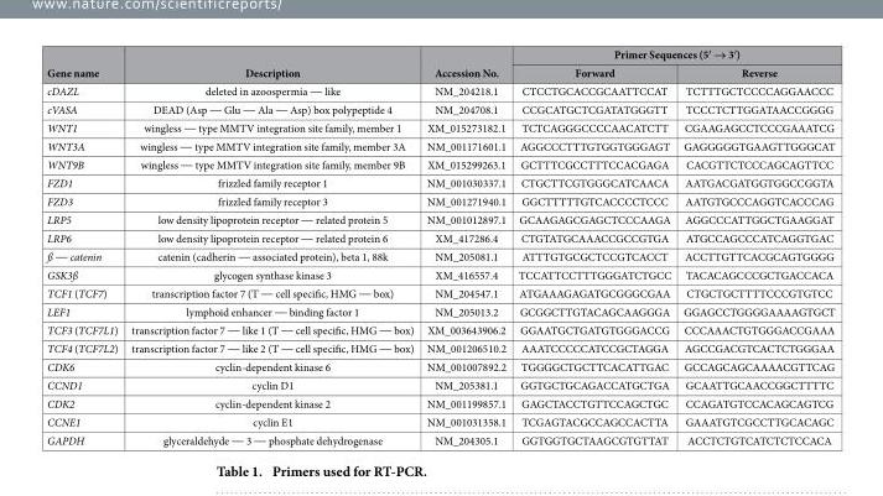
<table><thead><tr><td rowspan="2">Gene name</td><td rowspan="2">Description</td><td rowspan="2">Accession No.</td><td colspan="2">Primer Sequences (5′ → 3′)</td></tr><tr><td>Forward</td><td>Reverse</td></tr></thead><tbody><tr><td>cDAZL</td><td>deleted in azoospermia ̶ like</td><td>NM_204218.1</td><td>CTCCTGCACCGCAATTCCAT</td><td>TCTTTGCTCCCCAGGAACCC</td></tr><tr><td>cVASA</td><td>DEAD (Asp ̶ Glu ̶ Ala ̶ Asp) box polypeptide 4</td><td>NM_204708.1</td><td>CCGCATGCTCGATATGGGTT</td><td>TCCCTCTTGGATAACCGGGG</td></tr><tr><td>WNT1</td><td>wingless ̶ type MMTV integration site family, member 1</td><td>XM_015273182.1</td><td>TCTCAGGGCCCCAACATCTT</td><td>CGAAGAGCCTCCCGAAATCG</td></tr><tr><td>WNT3A</td><td>wingless ̶ type MMTV integration site family, member 3A</td><td>NM_001171601.1</td><td>AGGCCCTTTGTGGTGGGAGT</td><td>GAGGGGGTGAAGTTGGGCAT</td></tr><tr><td>WNT9B</td><td>wingless ̶ type MMTV integration site family, member 9B</td><td>XM_015299263.1</td><td>GCTTTCGCCTTTCCACGAGA</td><td>CACGTTCTCCCAGCAGTTCC</td></tr><tr><td>FZD1</td><td>frizzled family receptor 1</td><td>NM_001030337.1</td><td>CTGCTTCGTGGGCATCAACA</td><td>AATGACGATGGTGGCCGGTA</td></tr><tr><td>FZD3</td><td>frizzled family receptor 3</td><td>NM_001271940.1</td><td>GGCTTTTTGTCACCCCTCCC</td><td>AATGTGCCCAGGTCACCCAG</td></tr><tr><td>LRP5</td><td>low density lipoprotein receptor ̶ related protein 5</td><td>NM_001012897.1</td><td>GCAAGAGCGAGCTCCCAAGA</td><td>AGGCCCATTGGCTGAAGGAT</td></tr><tr><td>LRP6</td><td>low density lipoprotein receptor ̶ related protein 6</td><td>XM_417286.4</td><td>CTGTATGCAAACCGCCGTGA</td><td>ATGCCAGCCCATCAGGTGAC</td></tr><tr><td>ß ̶ catenin</td><td>catenin (cadherin ̶ associated protein), beta 1, 88k</td><td>NM_205081.1</td><td>ATTTGTGCGCTCCGTCACCT</td><td>ACCTTGTTCACGCAGTGGGG</td></tr><tr><td>GSK3ß</td><td>glycogen synthase kinase 3</td><td>XM_416557.4</td><td>TCCATTCCTTTGGGATCTGCC</td><td>TACACAGCCCGCTGACCACA</td></tr><tr><td>TCF1 (TCF7)</td><td>transcription factor 7 (T ̶ cell specific, HMG ̶ box)</td><td>NM_204547.1</td><td>ATGAAAGAGATGCGGGCGAA</td><td>CTGCTGCTTTTCCCGTGTCC</td></tr><tr><td>LEF1</td><td>lymphoid enhancer ̶ binding factor 1</td><td>NM_205013.2</td><td>GCGGCTTGTACAGCAAGGGA</td><td>GGAGCCTGGGGAAAAGTGCT</td></tr><tr><td>TCF3 (TCF7L1)</td><td>transcription factor 7 ̶ like 1 (T ̶ cell specific, HMG ̶ box)</td><td>XM_003643906.2</td><td>GGAATGCTGATGTGGGACCG</td><td>CCCAAACTGTGGGACCGAAA</td></tr><tr><td>TCF4 (TCF7L2)</td><td>transcription factor 7 ̶ like 2 (T ̶ cell specific, HMG ̶ box)</td><td>NM_001206510.2</td><td>AAATCCCCCATCCGCTAGGA</td><td>AGCCGACGTCACTCTGGGAA</td></tr><tr><td>CDK6</td><td>cyclin-dependent kinase 6</td><td>NM_001007892.2</td><td>TGGGGCTGCTTCACATTGAC</td><td>GCCAGCAGCAAAACGTTCAG</td></tr><tr><td>CCND1</td><td>cyclin D1</td><td>NM_205381.1</td><td>GGTGCTGCAGACCATGCTGA</td><td>GCAATTGCAACCGGCTTTTC</td></tr><tr><td>CDK2</td><td>cyclin-dependent kinase 2</td><td>NM_001199857.1</td><td>GAGCTACCTGTTCCAGCTGC</td><td>CCAGATGTCCACAGCAGTCG</td></tr><tr><td>CCNE1</td><td>cyclin E1</td><td>NM_001031358.1</td><td>TCGAGTACGCCAGCCACTTA</td><td>GAAATGTCGCCTTGCACAGC</td></tr><tr><td>GAPDH</td><td>glyceraldehyde ̶ 3 ̶ phosphate dehydrogenase</td><td>NM_204305.1</td><td>GGTGGTGCTAAGCGTGTTAT</td><td>ACCTCTGTCATCTCTCCACA</td></tr></tbody></table>